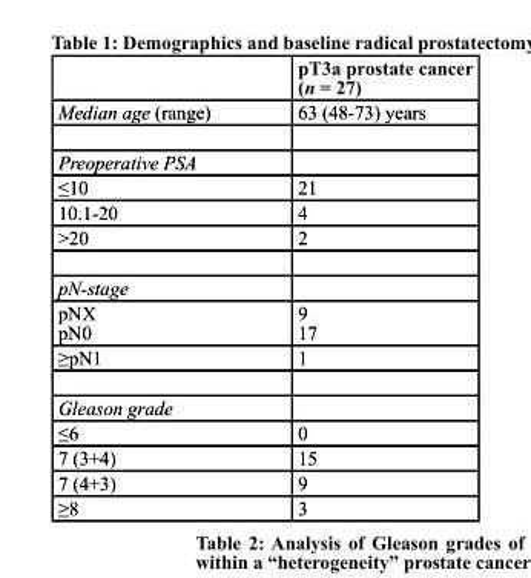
<table><thead><tr><td></td><td>pt3a prostate cancer (n = 27)</td></tr></thead><tbody><tr><td>Median age (range)</td><td>63 (48-73) years</td></tr><tr><td colspan="2">Preoperative PSA</td></tr><tr><td>≤10</td><td>21</td></tr><tr><td>10.1-20</td><td>4</td></tr><tr><td>&gt;20</td><td>2</td></tr><tr><td colspan="2">pN-stage</td></tr><tr><td>pNX pN0</td><td>9 17</td></tr><tr><td>≥pN1</td><td>1</td></tr><tr><td colspan="2">Gleason grade</td></tr><tr><td>≤6</td><td>0</td></tr><tr><td>7 (3+4)</td><td>15</td></tr><tr><td>7 (4+3)</td><td>9</td></tr><tr><td>≥8</td><td>3</td></tr></tbody></table>